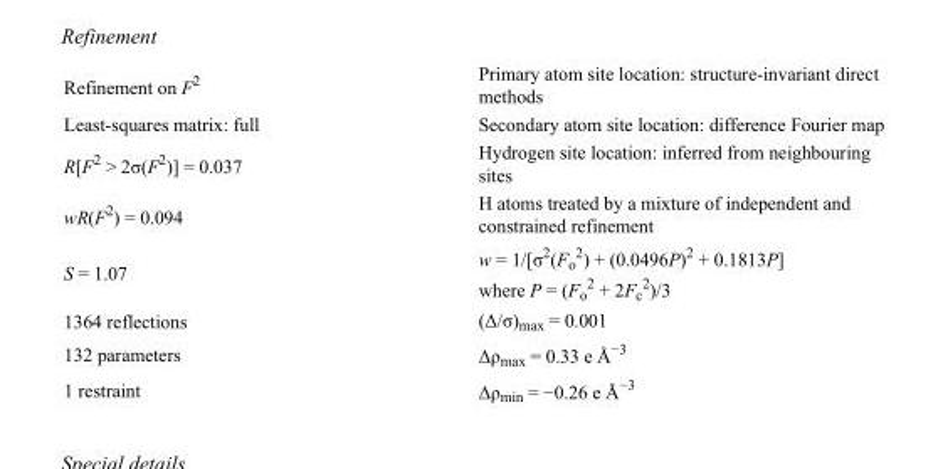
<table><tbody><tr><td>Refinement on F<sup>2</sup></td><td>Primary atom site location: structure-invariant direct methods</td></tr><tr><td>Least-squares matrix: full</td><td>Secondary atom site location: difference Fourier map</td></tr><tr><td>R[F<sup>2</sup> &gt; 2σ(F<sup>2</sup>)] = 0.037</td><td>Hydrogen site location: inferred from neighbouring sites</td></tr><tr><td>wR(F<sup>2</sup>) = 0.094</td><td>H atoms treated by a mixture of independent and constrained refinement</td></tr><tr><td>S = 1.07</td><td>w = 1/[σ<sup>2</sup>(F<sub>o</sub> <sup>2</sup>) + (0.0496P)<sup>2</sup> + 0.1813P] where P = (F<sub>o</sub> <sup>2</sup> + 2F<sub>c</sub> <sup>2</sup>)/3</td></tr><tr><td>1364 reflections</td><td>(Δ/σ)<sub>max</sub> = 0.001</td></tr><tr><td>132 parameters</td><td>Δρ<sub>max</sub> = 0.33 e Å<sup>−3</sup></td></tr><tr><td>1 restraint</td><td>Δρ<sub>min</sub> = −0.26 e Å<sup>−3</sup></td></tr></tbody></table>